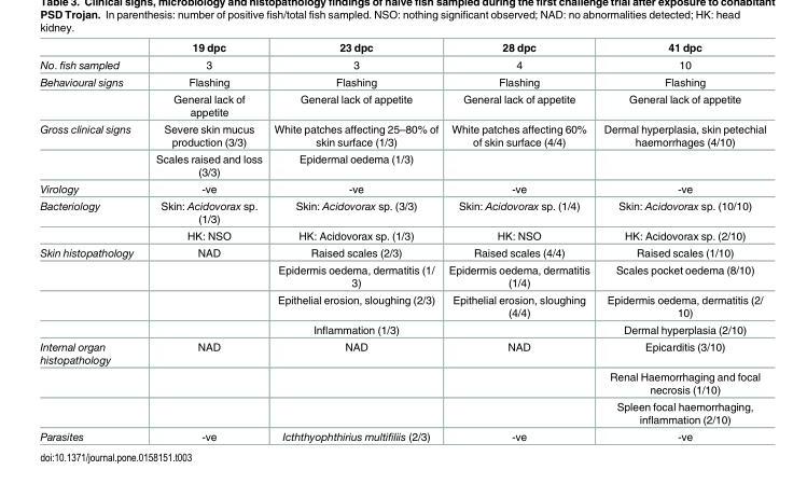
<table><thead><tr><td></td><td>19 dpc</td><td>23 dpc</td><td>28 dpc</td><td>41 dpc</td></tr></thead><tbody><tr><td>No. fish sampled</td><td>3</td><td>3</td><td>4</td><td>10</td></tr><tr><td rowspan="2">Behavioural signs</td><td>Flashing</td><td>Flashing</td><td>Flashing</td><td>Flashing</td></tr><tr><td>General lack of appetite</td><td>General lack of appetite</td><td>General lack of appetite</td><td>General lack of appetite</td></tr><tr><td rowspan="2">Gross clinical signs</td><td>Severe skin mucus production (3/3)</td><td>White patches affecting 25–80% of skin surface (1/3)</td><td>White patches affecting 60% of skin surface (4/4)</td><td>Dermal hyperplasia, skin petechial haemorrhages (4/10)</td></tr><tr><td>Scales raised and loss (3/3)</td><td>Epidermal oedema (1/3)</td><td></td><td></td></tr><tr><td>Virology</td><td>-ve</td><td>-ve</td><td>-ve</td><td>-ve</td></tr><tr><td rowspan="2">Bacteriology</td><td>Skin: Acidovorax sp. (1/3)</td><td>Skin: Acidovorax sp. (3/3)</td><td>Skin: Acidovorax sp. (1/4)</td><td>Skin: Acidovorax sp. (10/10)</td></tr><tr><td>HK: NSO</td><td>HK: Acidovorax sp. (1/3)</td><td>HK: NSO</td><td>HK: Acidovorax sp. (2/10)</td></tr><tr><td rowspan="4">Skin histopathology</td><td>NAD</td><td>Raised scales (2/3)</td><td>Raised scales (4/4)</td><td>Raised scales (1/10)</td></tr><tr><td></td><td>Epidermis oedema, dermatitis (1/ 3)</td><td>Epidermis oedema, dermatitis (1/4)</td><td>Scales pocket oedema (8/10)</td></tr><tr><td></td><td>Epithelial erosion, sloughing (2/3)</td><td>Epithelial erosion, sloughing (4/4)</td><td>Epidermis oedema, dermatitis (2/ 10)</td></tr><tr><td></td><td>Inflammation (1/3)</td><td></td><td>Dermal hyperplasia (2/10)</td></tr><tr><td rowspan="3">Internal organ histopathology</td><td>NAD</td><td>NAD</td><td>NAD</td><td>Epicarditis (3/10)</td></tr><tr><td></td><td></td><td></td><td>Renal Haemorrhaging and focal necrosis (1/10)</td></tr><tr><td></td><td></td><td></td><td>Spleen focal haemorrhaging, inflammation (2/10)</td></tr><tr><td>Parasites</td><td>-ve</td><td>Icththyophthirius multifiliis (2/3)</td><td>-ve</td><td>-ve</td></tr></tbody></table>